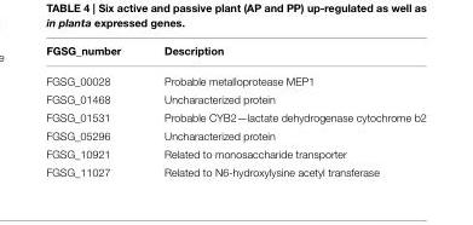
<table><thead><tr><td>FGSG_number</td><td>Description</td></tr></thead><tbody><tr><td>FGSG_00028</td><td>Probable metalloprotease MEP1</td></tr><tr><td>FGSG_01468</td><td>Uncharacterized protein</td></tr><tr><td>FGSG_01531</td><td>Probable CYB2—lactate dehydrogenase cytochrome b2</td></tr><tr><td>FGSG_05296</td><td>Uncharacterized protein</td></tr><tr><td>FGSG_10921</td><td>Related to monosaccharide transporter</td></tr><tr><td>FGSG_11027</td><td>Related to N6-hydroxylysine acetyl transferase</td></tr></tbody></table>